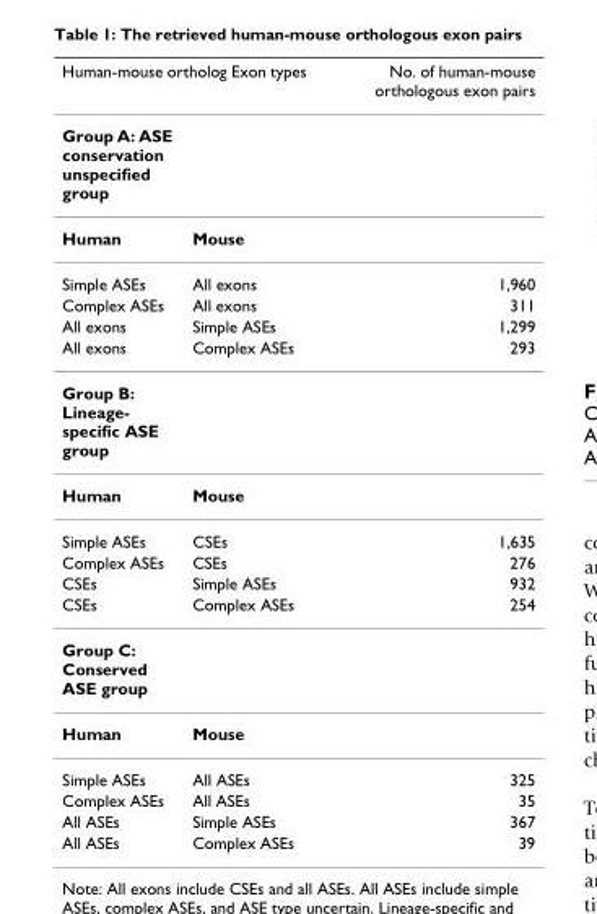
<table><thead><tr><td colspan="2">Human-mouse ortholog Exon types</td><td rowspan="2">No. of human-mouse orthologous exon pairs</td></tr><tr><td>Group A: ASE conservation unspecified group</td><td></td></tr></thead><tbody><tr><td>Human</td><td>Mouse</td><td></td></tr><tr><td>Simple ASEs</td><td>All exons</td><td>1,960</td></tr><tr><td>Complex ASEs</td><td>All exons</td><td>311</td></tr><tr><td>All exons</td><td>Simple ASEs</td><td>1,299</td></tr><tr><td>All exons</td><td>Complex ASEs</td><td>293</td></tr><tr><td colspan="3">Group B: Lineage- specific ASE group</td></tr><tr><td>Human</td><td>Mouse</td><td></td></tr><tr><td>Simple ASEs</td><td>CSEs</td><td>1,635</td></tr><tr><td>Complex ASEs</td><td>CSEs</td><td>276</td></tr><tr><td>CSEs</td><td>Simple ASEs</td><td>932</td></tr><tr><td>CSEs</td><td>Complex ASEs</td><td>254</td></tr><tr><td colspan="3">Group C: Conserved ASE group</td></tr><tr><td>Human</td><td>Mouse</td><td></td></tr><tr><td>Simple ASEs</td><td>All ASEs</td><td>325</td></tr><tr><td>Complex ASEs</td><td>All ASEs</td><td>35</td></tr><tr><td>All ASEs</td><td>Simple ASEs</td><td>367</td></tr><tr><td>All ASEs</td><td>Complex ASEs</td><td>39</td></tr></tbody></table>